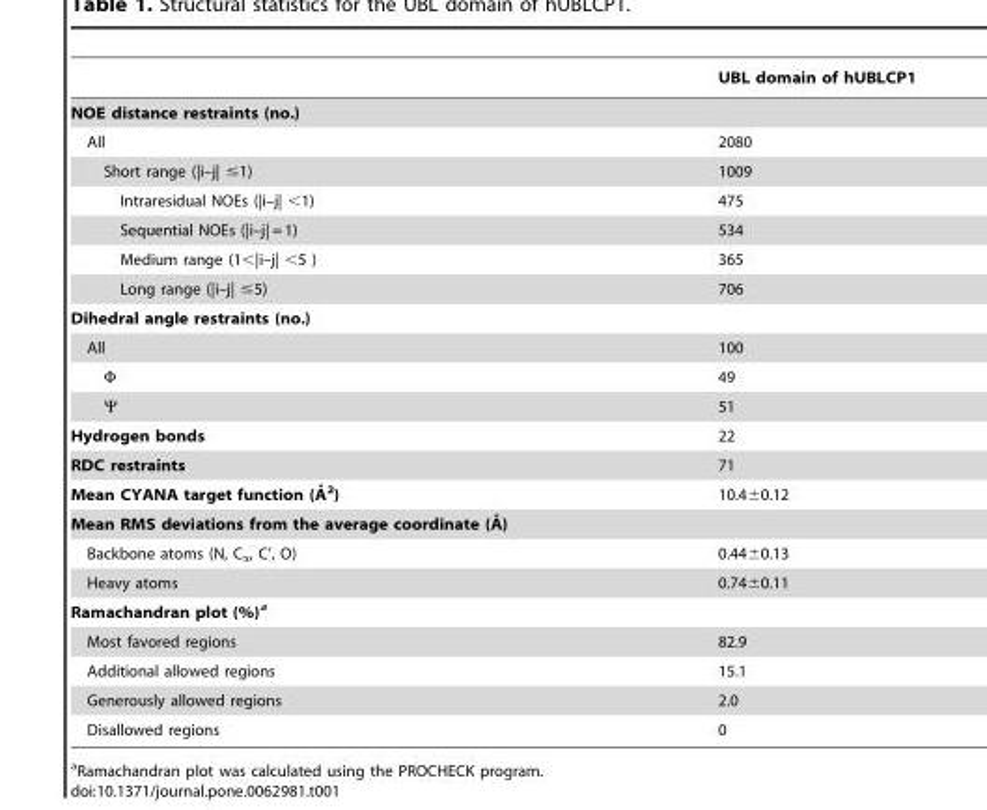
<table><thead><tr><td></td><td>UBL domain of hUBLCP1</td></tr></thead><tbody><tr><td colspan="2">NOE distance restraints (no.)</td></tr><tr><td>All</td><td>2080</td></tr><tr><td>Short range (|i–j| ≤1)</td><td>1009</td></tr><tr><td>Intraresidual NOEs (|i–j| &lt;1)</td><td>475</td></tr><tr><td>Sequential NOEs (|i–j| = 1)</td><td>534</td></tr><tr><td>Medium range (1&lt;|i–j| &lt;5 )</td><td>365</td></tr><tr><td>Long range (|i–j| ≤5)</td><td>706</td></tr><tr><td colspan="2">Dihedral angle restraints (no.)</td></tr><tr><td>All</td><td>100</td></tr><tr><td>Φ</td><td>49</td></tr><tr><td>Ψ</td><td>51</td></tr><tr><td>Hydrogen bonds</td><td>22</td></tr><tr><td>RDC restraints</td><td>71</td></tr><tr><td>Mean CYANA target function (A˚ 2)</td><td>10.4±0.12</td></tr><tr><td colspan="2">Mean RMS deviations from the average coordinate (A˚ )</td></tr><tr><td>Backbone atoms (N, C<sub>α</sub>, C’, O)</td><td>0.44±0.13</td></tr><tr><td>Heavy atoms</td><td>0.74±0.11</td></tr><tr><td colspan="2">Ramachandran plot (%)a</td></tr><tr><td>Most favored regions</td><td>82.9</td></tr><tr><td>Additional allowed regions</td><td>15.1</td></tr><tr><td>Generously allowed regions</td><td>2.0</td></tr><tr><td>Disallowed regions</td><td>0</td></tr></tbody></table>